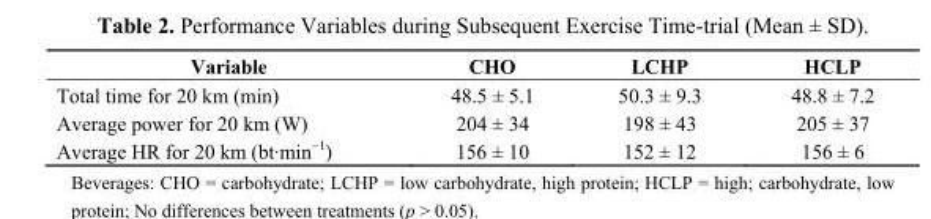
<table><thead><tr><td>Variable</td><td>CHO</td><td>LCHP</td><td>HCLP</td></tr></thead><tbody><tr><td>Total time for 20 km (min)</td><td>48.5 ± 5.1</td><td>50.3 ± 9.3</td><td>48.8 ± 7.2</td></tr><tr><td>Average power for 20 km (W)</td><td>204 ± 34</td><td>198 ± 43</td><td>205 ± 37</td></tr><tr><td>Average HR for 20 km (bt·min<sup>−1</sup>)</td><td>156 ± 10</td><td>152 ± 12</td><td>156 ± 6</td></tr></tbody></table>